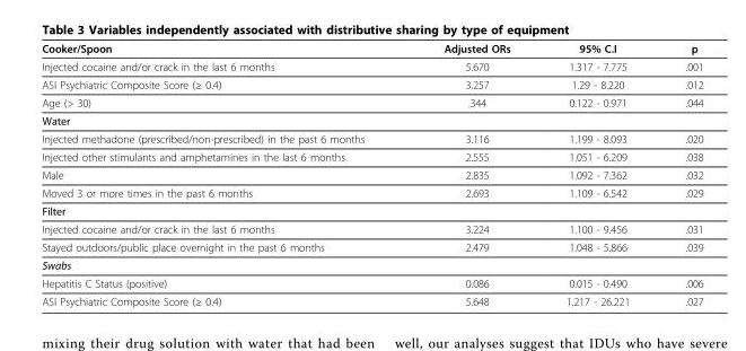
<table><thead><tr><td>Cooker/Spoon</td><td>Adjusted ORs</td><td>95% C.I</td><td>p</td></tr></thead><tbody><tr><td>Injected cocaine and/or crack in the last 6 months</td><td>5.670</td><td>1.317 - 7.775</td><td>.001</td></tr><tr><td>ASI Psychiatric Composite Score (≥ 0.4)</td><td>3.257</td><td>1.29 - 8.220</td><td>.012</td></tr><tr><td>Age (&gt; 30)</td><td>.344</td><td>0.122 - 0.971</td><td>.044</td></tr><tr><td colspan="4">Water</td></tr><tr><td>Injected methadone (prescribed/non-prescribed) in the past 6 months</td><td>3.116</td><td>1.199 - 8.093</td><td>.020</td></tr><tr><td>Injected other stimulants and amphetamines in the last 6 months</td><td>2.555</td><td>1.051 - 6.209</td><td>.038</td></tr><tr><td>Male</td><td>2.835</td><td>1.092 - 7.362</td><td>.032</td></tr><tr><td>Moved 3 or more times in the past 6 months</td><td>2.693</td><td>1.109 - 6.542</td><td>.029</td></tr><tr><td colspan="4">Filter</td></tr><tr><td>Injected cocaine and/or crack in the last 6 months</td><td>3.224</td><td>1.100 - 9.456</td><td>.031</td></tr><tr><td>Stayed outdoors/public place overnight in the past 6 months</td><td>2.479</td><td>1.048 - 5.866</td><td>.039</td></tr><tr><td colspan="4">Swabs</td></tr><tr><td>Hepatitis C Status (positive)</td><td>0.086</td><td>0.015 - 0.490</td><td>.006</td></tr><tr><td>ASI Psychiatric Composite Score (≥ 0.4)</td><td>5.648</td><td>1.217 - 26.221</td><td>.027</td></tr></tbody></table>